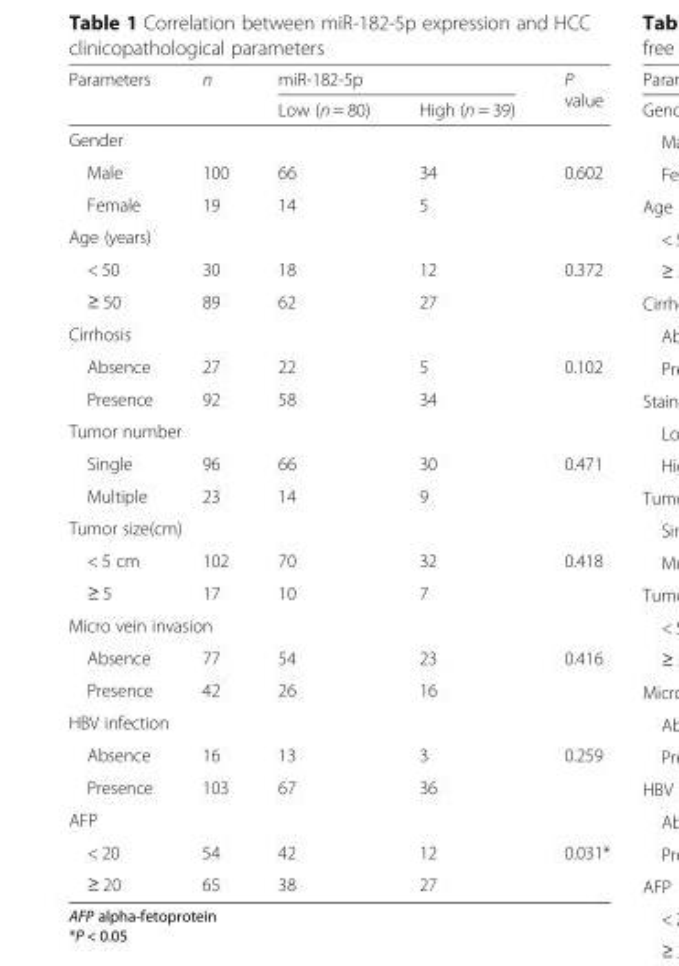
<table><thead><tr><td rowspan="2">Parameters</td><td rowspan="2">n</td><td colspan="2">miR-182-5p</td><td rowspan="2">P value</td></tr><tr><td>Low (n = 80)</td><td>High (n = 39)</td></tr></thead><tbody><tr><td colspan="5">Gender</td></tr><tr><td>Male</td><td>100</td><td>66</td><td>34</td><td rowspan="2">0.602</td></tr><tr><td>Female</td><td>19</td><td>14</td><td>5</td></tr><tr><td colspan="5">Age (years)</td></tr><tr><td>&lt; 50</td><td>30</td><td>18</td><td>12</td><td rowspan="2">0.372</td></tr><tr><td>≥ 50</td><td>89</td><td>62</td><td>27</td></tr><tr><td colspan="5">Cirrhosis</td></tr><tr><td>Absence</td><td>27</td><td>22</td><td>5</td><td rowspan="2">0.102</td></tr><tr><td>Presence</td><td>92</td><td>58</td><td>34</td></tr><tr><td colspan="5">Tumor number</td></tr><tr><td>Single</td><td>96</td><td>66</td><td>30</td><td rowspan="2">0.471</td></tr><tr><td>Multiple</td><td>23</td><td>14</td><td>9</td></tr><tr><td colspan="5">Tumor size(cm)</td></tr><tr><td>&lt; 5 cm</td><td>102</td><td>70</td><td>32</td><td rowspan="2">0.418</td></tr><tr><td>≥ 5</td><td>17</td><td>10</td><td>7</td></tr><tr><td colspan="5">Micro vein invasion</td></tr><tr><td>Absence</td><td>77</td><td>54</td><td>23</td><td rowspan="2">0.416</td></tr><tr><td>Presence</td><td>42</td><td>26</td><td>16</td></tr><tr><td colspan="5">HBV infection</td></tr><tr><td>Absence</td><td>16</td><td>13</td><td>3</td><td rowspan="2">0.259</td></tr><tr><td>Presence</td><td>103</td><td>67</td><td>36</td></tr><tr><td colspan="5">AFP</td></tr><tr><td>&lt; 20</td><td>54</td><td>42</td><td>12</td><td rowspan="2">0.031*</td></tr><tr><td>≥ 20</td><td>65</td><td>38</td><td>27</td></tr></tbody></table>